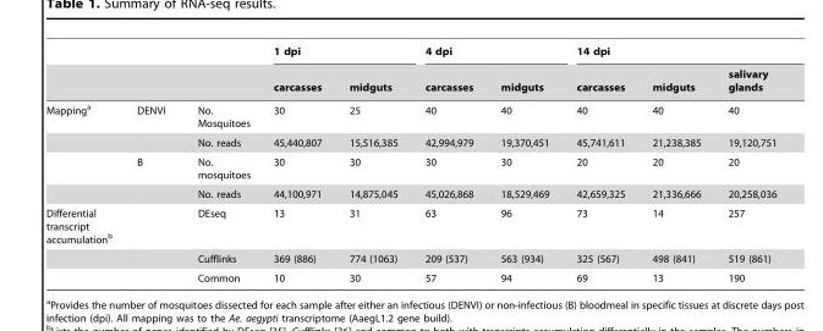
<table><thead><tr><td rowspan="2"></td><td rowspan="2"></td><td rowspan="2"></td><td colspan="2">1 dpi</td><td colspan="2">4 dpi</td><td colspan="3">14 dpi</td></tr><tr><td>carcasses</td><td>midguts</td><td>carcasses</td><td>midguts</td><td>carcasses</td><td>midguts</td><td>salivary glands</td></tr></thead><tbody><tr><td rowspan="4">Mapping<sup>a</sup></td><td>DENVI</td><td>No. Mosquitoes</td><td>30</td><td>25</td><td>40</td><td>40</td><td>40</td><td>40</td><td>40</td></tr><tr><td></td><td>No. reads</td><td>45,440,807</td><td>15,516,385</td><td>42,994,979</td><td>19,370,451</td><td>45,741,611</td><td>21,238,385</td><td>19,120,751</td></tr><tr><td>B</td><td>No. mosquitoes</td><td>30</td><td>30</td><td>30</td><td>30</td><td>20</td><td>20</td><td>20</td></tr><tr><td></td><td>No. reads</td><td>44,100,971</td><td>14,875,045</td><td>45,026,868</td><td>18,529,469</td><td>42,659,325</td><td>21,336,666</td><td>20,258,036</td></tr><tr><td rowspan="3">Differential transcript accumulation<sup>b</sup></td><td></td><td>DEseq</td><td>13</td><td>31</td><td>63</td><td>96</td><td>73</td><td>14</td><td>257</td></tr><tr><td></td><td>Cufflinks</td><td>369 (886)</td><td>774 (1063)</td><td>209 (537)</td><td>563 (934)</td><td>325 (567)</td><td>498 (841)</td><td>519 (861)</td></tr><tr><td></td><td>Common</td><td>10</td><td>30</td><td>57</td><td>94</td><td>69</td><td>13</td><td>190</td></tr></tbody></table>